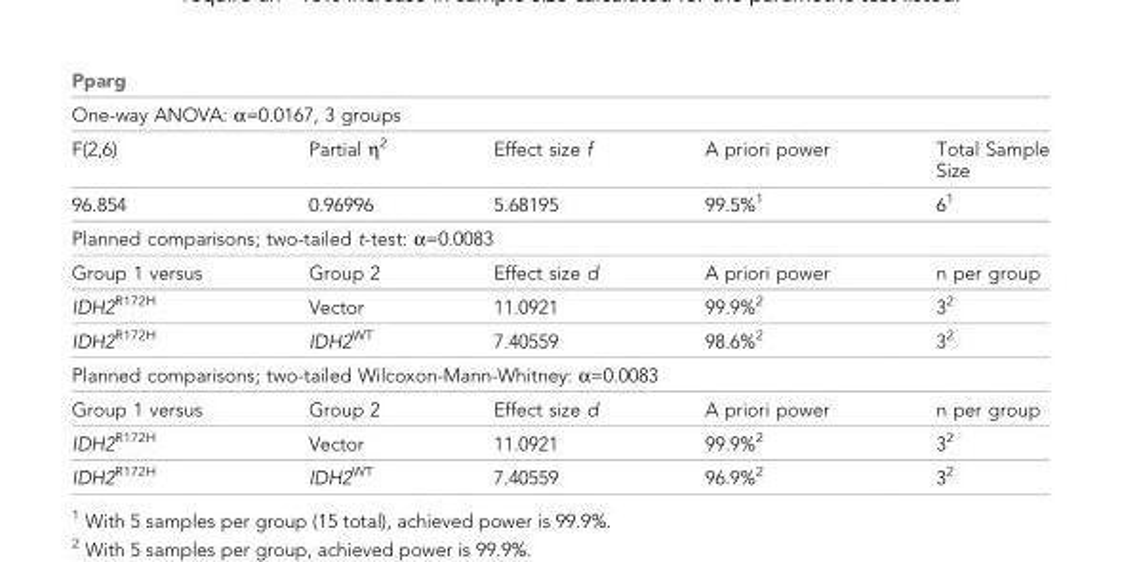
<table><thead><tr><td rowspan="2" colspan="5">Pparg One-way ANOVA: α=0.0167, 3 groups</td></tr><tr></tr><tr><td>F(2,6)</td><td>Partial η<sup>2</sup></td><td>Effect size f</td><td>A priori power</td><td>Total Sample Size</td></tr></thead><tbody><tr><td>96.854</td><td>0.96996</td><td>5.68195</td><td>99.5%<sup>1</sup></td><td>6<sup>1</sup></td></tr><tr><td colspan="5">Planned comparisons; two-tailed t-test: α=0.0083</td></tr><tr><td>Group 1 versus</td><td>Group 2</td><td>Effect size d</td><td>A priori power</td><td>n per group</td></tr><tr><td>IDH2<sup>R172H</sup></td><td>Vector</td><td>11.0921</td><td>99.9%<sup>2</sup></td><td>3<sup>2</sup></td></tr><tr><td>IDH2<sup>R172H</sup></td><td>IDH2<sup>WT</sup></td><td>7.40559</td><td>98.6%<sup>2</sup></td><td>3<sup>2</sup></td></tr><tr><td colspan="5">Planned comparisons; two-tailed Wilcoxon-Mann-Whitney: α=0.0083</td></tr><tr><td>Group 1 versus</td><td>Group 2</td><td>Effect size d</td><td>A priori power</td><td>n per group</td></tr><tr><td>IDH2<sup>R172H</sup></td><td>Vector</td><td>11.0921</td><td>99.9%<sup>2</sup></td><td>3<sup>2</sup></td></tr><tr><td>IDH2<sup>R172H</sup></td><td>IDH2<sup>WT</sup></td><td>7.40559</td><td>96.9%<sup>2</sup></td><td>3<sup>2</sup></td></tr></tbody></table>